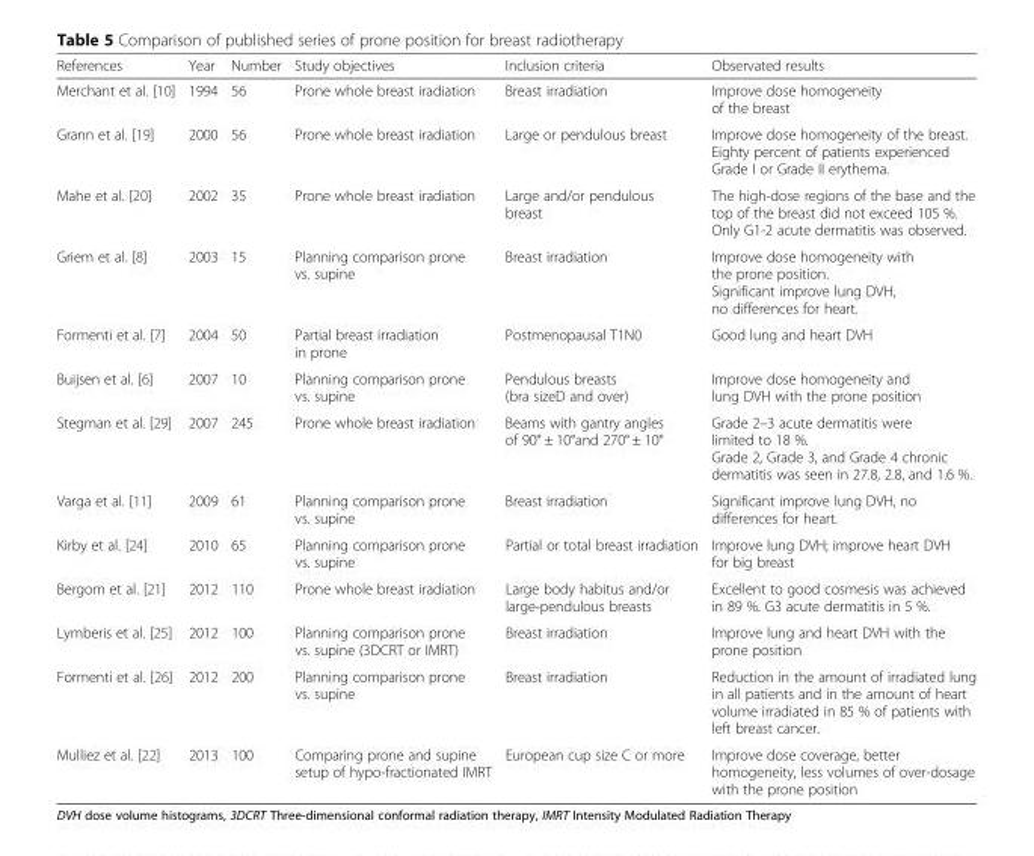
<table><thead><tr><td>References</td><td>Year</td><td>Number</td><td>Study objectives</td><td>Inclusion criteria</td><td>Observated results</td></tr></thead><tbody><tr><td>Merchant et al. [10]</td><td>1994</td><td>56</td><td>Prone whole breast iradiation</td><td>Breast irradiation</td><td>Improve dose homogeneity of the breast</td></tr><tr><td>Grann et al. [19]</td><td>2000</td><td>56</td><td>Prone whole breast iradiation</td><td>Large or pendulous breast</td><td>Improve dose homogeneity of the breast. Eighty percent of patients experienced Grade I or Grade II erythema.</td></tr><tr><td>Mahe et al. [20]</td><td>2002</td><td>35</td><td>Prone whole breast iradiation</td><td>Large and/or pendulous breast</td><td>The high-dose regions of the base and the top of the breast did not exceed 105 %. Only G1-2 acute dermatitis was observed.</td></tr><tr><td>Griem et al. [8]</td><td>2003</td><td>15</td><td>Planning comparison prone vs. supine</td><td>Breast irradiation</td><td>Improve dose homogeneity with the prone position. Significant improve lung DVH, no differences for heart.</td></tr><tr><td>Formenti et al. [7]</td><td>2004</td><td>50</td><td>Partial breast irradiation in prone</td><td>Postmenopausal T1N0</td><td>Good lung and heart DVH</td></tr><tr><td>Buijsen et al. [6]</td><td>2007</td><td>10</td><td>Planning comparison prone vs. supine</td><td>Pendulous breasts (bra sizeD and over)</td><td>Improve dose homogeneity and lung DVH with the prone position</td></tr><tr><td>Stegman et al. [29]</td><td>2007</td><td>245</td><td>Prone whole breast iradiation</td><td>Beams with gantry angles of 90° ± 10°and 270° ± 10°</td><td>Grade 2–3 acute dermatitis were limited to 18 %. Grade 2, Grade 3, and Grade 4 chronic dermatitis was seen in 27.8, 2.8, and 1.6 %.</td></tr><tr><td>Varga et al. [11]</td><td>2009</td><td>61</td><td>Planning comparison prone vs. supine</td><td>Breast irradiation</td><td>Significant improve lung DVH, no differences for heart.</td></tr><tr><td>Kirby et al. [24]</td><td>2010</td><td>65</td><td>Planning comparison prone vs. supine</td><td>Partial or total breast irradiation</td><td>Improve lung DVH; improve heart DVH for big breast</td></tr><tr><td>Bergom et al. [21]</td><td>2012</td><td>110</td><td>Prone whole breast iradiation</td><td>Large body habitus and/or large-pendulous breasts</td><td>Excellent to good cosmesis was achieved in 89 %. G3 acute dermatitis in 5 %.</td></tr><tr><td>Lymberis et al. [25]</td><td>2012</td><td>100</td><td>Planning comparison prone vs. supine (3DCRT or IMRT)</td><td>Breast irradiation</td><td>Improve lung and heart DVH with the prone position</td></tr><tr><td>Formenti et al. [26]</td><td>2012</td><td>200</td><td>Planning comparison prone vs. supine</td><td>Breast irradiation</td><td>Reduction in the amount of irradiated lung in all patients and in the amount of heart volume irradiated in 85 % of patients with left breast cancer.</td></tr><tr><td>Mulliez et al. [22]</td><td>2013</td><td>100</td><td>Comparing prone and supine setup of hypo-fractionated IMRT</td><td>European cup size C or more</td><td>Improve dose coverage, better homogeneity, less volumes of over-dosage with the prone position</td></tr></tbody></table>